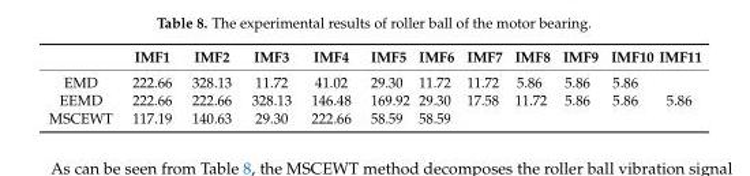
<table><thead><tr><td></td><td>IMF1</td><td>IMF2</td><td>IMF3</td><td>IMF4</td><td>IMF5</td><td>IMF6</td><td>IMF7</td><td>IMF8</td><td>IMF9</td><td>IMF10</td><td>IMF11</td></tr></thead><tbody><tr><td>EMD</td><td>222.66</td><td>328.13</td><td>11.72</td><td>41.02</td><td>29.30</td><td>11.72</td><td>11.72</td><td>5.86</td><td>5.86</td><td>5.86</td><td></td></tr><tr><td>EEMD</td><td>222.66</td><td>222.66</td><td>328.13</td><td>146.48</td><td>169.92</td><td>29.30</td><td>17.58</td><td>11.72</td><td>5.86</td><td>5.86</td><td>5.86</td></tr><tr><td>MSCEWT</td><td>117.19</td><td>140.63</td><td>29.30</td><td>222.66</td><td>58.59</td><td>58.59</td><td></td><td></td><td></td><td></td><td></td></tr></tbody></table>